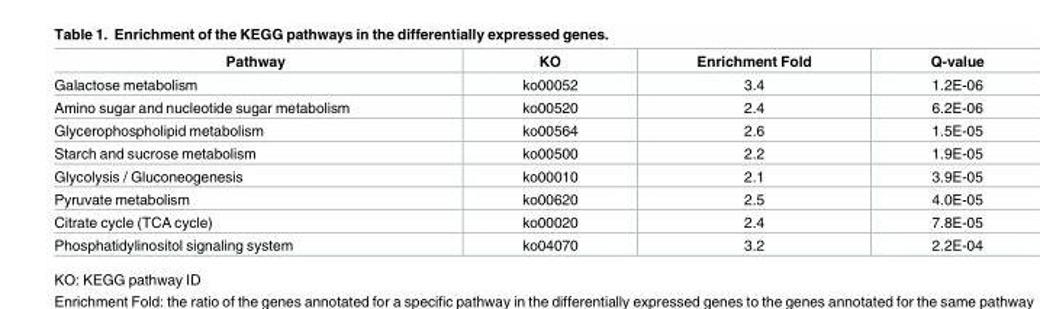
<table><thead><tr><td>Pathway</td><td>KO</td><td>Enrichment Fold</td><td>Q-value</td></tr></thead><tbody><tr><td>Galactose metabolism</td><td>ko00052</td><td>3.4</td><td>1.2E-06</td></tr><tr><td>Amino sugar and nucleotide sugar metabolism</td><td>ko00520</td><td>2.4</td><td>6.2E-06</td></tr><tr><td>Glycerophospholipid metabolism</td><td>ko00564</td><td>2.6</td><td>1.5E-05</td></tr><tr><td>Starch and sucrose metabolism</td><td>ko00500</td><td>2.2</td><td>1.9E-05</td></tr><tr><td>Glycolysis / Gluconeogenesis</td><td>ko00010</td><td>2.1</td><td>3.9E-05</td></tr><tr><td>Pyruvate metabolism</td><td>ko00620</td><td>2.5</td><td>4.0E-05</td></tr><tr><td>Citrate cycle (TCA cycle)</td><td>ko00020</td><td>2.4</td><td>7.8E-05</td></tr><tr><td>Phosphatidylinositol signaling system</td><td>ko04070</td><td>3.2</td><td>2.2E-04</td></tr></tbody></table>